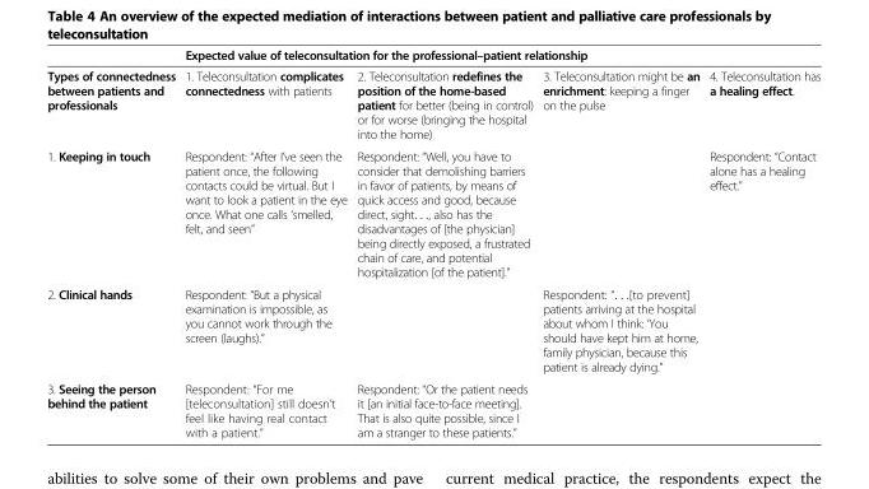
<table><thead><tr><td rowspan="2">Types of connectedness between patients and professionals</td><td colspan="4">Expected value of teleconsultation for the professional–patient relationship</td></tr><tr><td>1. Teleconsultation complicates connectedness with patients</td><td>2. Teleconsultation redefines the position of the home-based patient for better (being in control) or for worse (bringing the hospital into the home)</td><td>3. Teleconsultation might be an enrichment: keeping a finger on the pulse</td><td>4. Teleconsultation has a healing effect.</td></tr></thead><tbody><tr><td>1. Keeping in touch</td><td>Respondent: “After I’ve seen the patient once, the following contacts could be virtual. But I want to look a patient in the eye once. What one calls ‘smelled, felt, and seen”</td><td>Respondent: “Well, you have to consider that demolishing barriers in favor of patients, by means of quick access and good, because direct, sight..., also has the disadvantages of [the physician] being directly exposed, a frustrated chain of care, and potential hospitalization [of the patient].”</td><td></td><td>Respondent: “Contact alone has a healing effect.”</td></tr><tr><td>2. Clinical hands</td><td>Respondent: “But a physical examination is impossible, as you cannot work through the screen (laughs).”</td><td></td><td>Respondent: “. . .[to prevent] patients arriving at the hospital about whom I think: ‘You should have kept him at home, family physician, because this patient is already dying.”</td><td></td></tr><tr><td>3. Seeing the person behind the patient</td><td>Respondent: “For me [teleconsultation] still doesn’t feel like having real contact with a patient.”</td><td>Respondent: “Or the patient needs it [an initial face-to-face meeting]. That is also quite possible, since I am a stranger to these patients.”</td><td></td><td></td></tr></tbody></table>